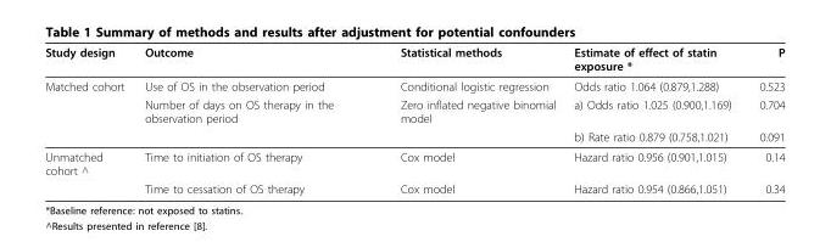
<table><thead><tr><td>Study design</td><td>Outcome</td><td>Statistical methods</td><td>Estimate of effect of statin exposure *</td><td>P</td></tr></thead><tbody><tr><td rowspan="3">Matched cohort</td><td>Use of OS in the observation period</td><td>Conditional logistic regression</td><td>Odds ratio 1.064 (0.879,1.288)</td><td>0.523</td></tr><tr><td>Number of days on OS therapy in the observation period</td><td>Zero inflated negative binomial model</td><td>a) Odds ratio 1.025 (0.900,1.169)</td><td>0.704</td></tr><tr><td></td><td></td><td>b) Rate ratio 0.879 (0.758,1.021)</td><td>0.091</td></tr><tr><td rowspan="2">Unmatched cohort ^</td><td>Time to initiation of OS therapy</td><td>Cox model</td><td>Hazard ratio 0.956 (0.901,1.015)</td><td>0.14</td></tr><tr><td>Time to cessation of OS therapy</td><td>Cox model</td><td>Hazard ratio 0.954 (0.866,1.051)</td><td>0.34</td></tr></tbody></table>